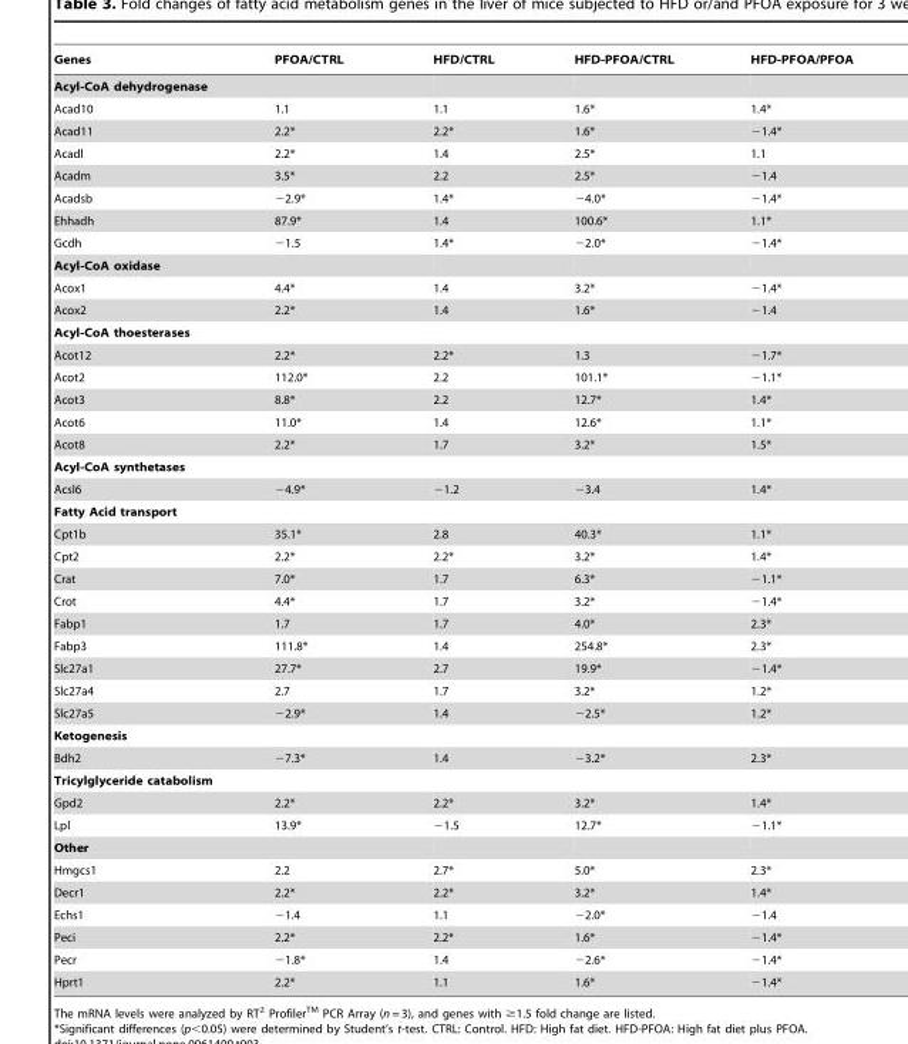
<table><thead><tr><td>Genes</td><td>PFOA/CTRL</td><td>HFD/CTRL</td><td>HFD-PFOA/CTRL</td><td>HFD-PFOA/PFOA</td></tr></thead><tbody><tr><td colspan="5">Acyl-CoA dehydrogenase</td></tr><tr><td>Acad10</td><td>1.1</td><td>1.1</td><td>1.6*</td><td>1.4*</td></tr><tr><td>Acad11</td><td>2.2*</td><td>2.2*</td><td>1.6*</td><td>−1.4*</td></tr><tr><td>Acadl</td><td>2.2*</td><td>1.4</td><td>2.5*</td><td>1.1</td></tr><tr><td>Acadm</td><td>3.5*</td><td>2.2</td><td>2.5*</td><td>−1.4</td></tr><tr><td>Acadsb</td><td>−2.9*</td><td>1.4*</td><td>−4.0*</td><td>−1.4*</td></tr><tr><td>Ehhadh</td><td>87.9*</td><td>1.4</td><td>100.6*</td><td>1.1*</td></tr><tr><td>Gcdh</td><td>−1.5</td><td>1.4*</td><td>−2.0*</td><td>−1.4*</td></tr><tr><td colspan="5">Acyl-CoA oxidase</td></tr><tr><td>Acox1</td><td>4.4*</td><td>1.4</td><td>3.2*</td><td>−1.4*</td></tr><tr><td>Acox2</td><td>2.2*</td><td>1.4</td><td>1.6*</td><td>−1.4</td></tr><tr><td colspan="5">Acyl-CoA thoesterases</td></tr><tr><td>Acot12</td><td>2.2*</td><td>2.2*</td><td>1.3</td><td>−1.7*</td></tr><tr><td>Acot2</td><td>112.0*</td><td>2.2</td><td>101.1*</td><td>−1.1*</td></tr><tr><td>Acot3</td><td>8.8*</td><td>2.2</td><td>12.7*</td><td>1.4*</td></tr><tr><td>Acot6</td><td>11.0*</td><td>1.4</td><td>12.6*</td><td>1.1*</td></tr><tr><td>Acot8</td><td>2.2*</td><td>1.7</td><td>3.2*</td><td>1.5*</td></tr><tr><td colspan="5">Acyl-CoA synthetases</td></tr><tr><td>Acsl6</td><td>−4.9*</td><td>−1.2</td><td>−3.4</td><td>1.4*</td></tr><tr><td colspan="5">Fatty Acid transport</td></tr><tr><td>Cpt1b</td><td>35.1*</td><td>2.8</td><td>40.3*</td><td>1.1*</td></tr><tr><td>Cpt2</td><td>2.2*</td><td>2.2*</td><td>3.2*</td><td>1.4*</td></tr><tr><td>Crat</td><td>7.0*</td><td>1.7</td><td>6.3*</td><td>−1.1*</td></tr><tr><td>Crot</td><td>4.4*</td><td>1.7</td><td>3.2*</td><td>−1.4*</td></tr><tr><td>Fabp1</td><td>1.7</td><td>1.7</td><td>4.0*</td><td>2.3*</td></tr><tr><td>Fabp3</td><td>111.8*</td><td>1.4</td><td>254.8*</td><td>2.3*</td></tr><tr><td>Slc27a1</td><td>27.7*</td><td>2.7</td><td>19.9*</td><td>−1.4*</td></tr><tr><td>Slc27a4</td><td>2.7</td><td>1.7</td><td>3.2*</td><td>1.2*</td></tr><tr><td>Slc27a5</td><td>−2.9*</td><td>1.4</td><td>−2.5*</td><td>1.2*</td></tr><tr><td colspan="5">Ketogenesis</td></tr><tr><td>Bdh2</td><td>−7.3*</td><td>1.4</td><td>−3.2*</td><td>2.3*</td></tr><tr><td colspan="5">Tricylglyceride catabolism</td></tr><tr><td>Gpd2</td><td>2.2*</td><td>2.2*</td><td>3.2*</td><td>1.4*</td></tr><tr><td>Lpl</td><td>13.9*</td><td>−1.5</td><td>12.7*</td><td>−1.1*</td></tr><tr><td colspan="5">Other</td></tr><tr><td>Hmgcs1</td><td>2.2</td><td>2.7*</td><td>5.0*</td><td>2.3*</td></tr><tr><td>Decr1</td><td>2.2*</td><td>2.2*</td><td>3.2*</td><td>1.4*</td></tr><tr><td>Echs1</td><td>−1.4</td><td>1.1</td><td>−2.0*</td><td>−1.4</td></tr><tr><td>Peci</td><td>2.2*</td><td>2.2*</td><td>1.6*</td><td>−1.4*</td></tr><tr><td>Pecr</td><td>−1.8*</td><td>1.4</td><td>−2.6*</td><td>−1.4*</td></tr><tr><td>Hprt1</td><td>2.2*</td><td>1.1</td><td>1.6*</td><td>−1.4*</td></tr></tbody></table>